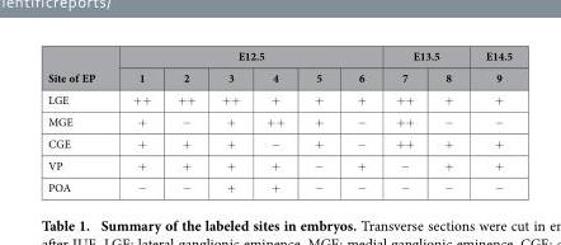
<table><thead><tr><td rowspan="2">Site of EP</td><td colspan="6">E12.5</td><td colspan="2">E13.5</td><td rowspan="2">E14.5 9</td></tr><tr><td>1</td><td>2</td><td>3</td><td>4</td><td>5</td><td>6</td><td>7</td><td>8</td></tr></thead><tbody><tr><td>LGE</td><td>+ +</td><td>+ +</td><td>+ +</td><td>+</td><td>+</td><td>+</td><td>+ +</td><td>+</td><td>+</td></tr><tr><td>MGE</td><td>+</td><td>−</td><td>+</td><td>+ +</td><td>+</td><td>−</td><td>+ +</td><td>−</td><td>−</td></tr><tr><td>CGE</td><td>+</td><td>+</td><td>+</td><td>−</td><td>+</td><td>−</td><td>+ +</td><td>+</td><td>+</td></tr><tr><td>VP</td><td>+</td><td>+</td><td>+</td><td>+</td><td>−</td><td>+</td><td>−</td><td>+</td><td>+</td></tr><tr><td>POA</td><td>−</td><td>−</td><td>+</td><td>+</td><td>−</td><td>−</td><td>−</td><td>−</td><td>−</td></tr></tbody></table>